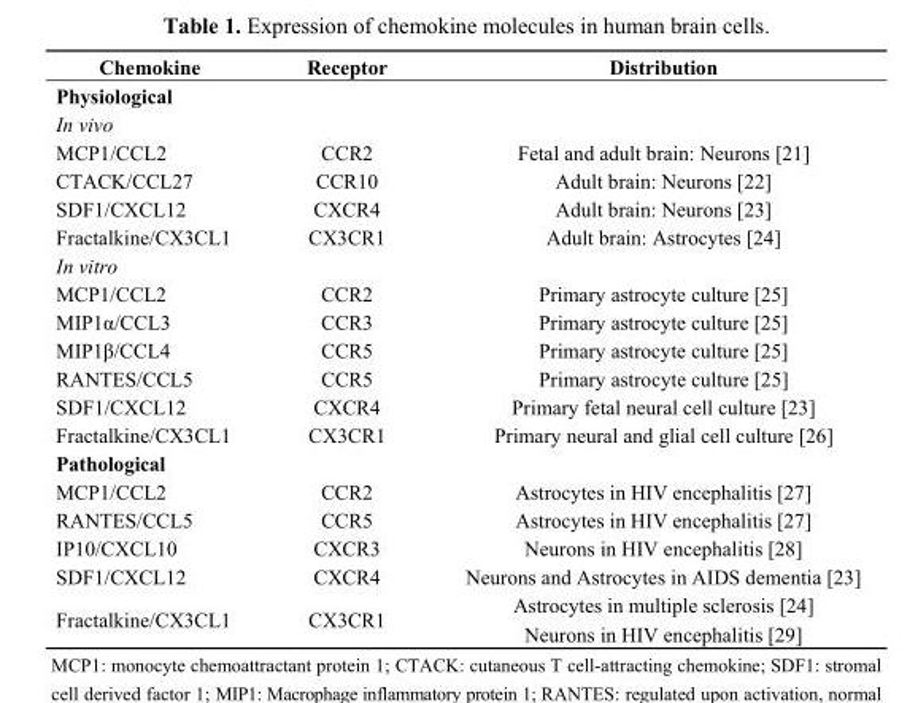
<table><thead><tr><td>Chemokine</td><td>Receptor</td><td>Distribution</td></tr></thead><tbody><tr><td colspan="3">Physiological</td></tr><tr><td colspan="3">In vivo</td></tr><tr><td>MCP1/CCL2</td><td>CCR2</td><td>Fetal and adult brain: Neurons [21]</td></tr><tr><td>CTACK/CCL27</td><td>CCR10</td><td>Adult brain: Neurons [22]</td></tr><tr><td>SDF1/CXCL12</td><td>CXCR4</td><td>Adult brain: Neurons [23]</td></tr><tr><td>Fractalkine/CX3CL1</td><td>CX3CR1</td><td>Adult brain: Astrocytes [24]</td></tr><tr><td colspan="3">In vitro</td></tr><tr><td>MCP1/CCL2</td><td>CCR2</td><td>Primary astrocyte culture [25]</td></tr><tr><td>MIP1α/CCL3</td><td>CCR3</td><td>Primary astrocyte culture [25]</td></tr><tr><td>MIP1β/CCL4</td><td>CCR5</td><td>Primary astrocyte culture [25]</td></tr><tr><td>RANTES/CCL5</td><td>CCR5</td><td>Primary astrocyte culture [25]</td></tr><tr><td>SDF1/CXCL12</td><td>CXCR4</td><td>Primary fetal neural cell culture [23]</td></tr><tr><td>Fractalkine/CX3CL1</td><td>CX3CR1</td><td>Primary neural and glial cell culture [26]</td></tr><tr><td colspan="3">Pathological</td></tr><tr><td>MCP1/CCL2</td><td>CCR2</td><td>Astrocytes in HIV encephalitis [27]</td></tr><tr><td>RANTES/CCL5</td><td>CCR5</td><td>Astrocytes in HIV encephalitis [27]</td></tr><tr><td>IP10/CXCL10</td><td>CXCR3</td><td>Neurons in HIV encephalitis [28]</td></tr><tr><td>SDF1/CXCL12</td><td>CXCR4</td><td>Neurons and Astrocytes in AIDS dementia [23]</td></tr><tr><td>Fractalkine/CX3CL1</td><td>CX3CR1</td><td>Astrocytes in multiple sclerosis [24] Neurons in HIV encephalitis [29]</td></tr></tbody></table>